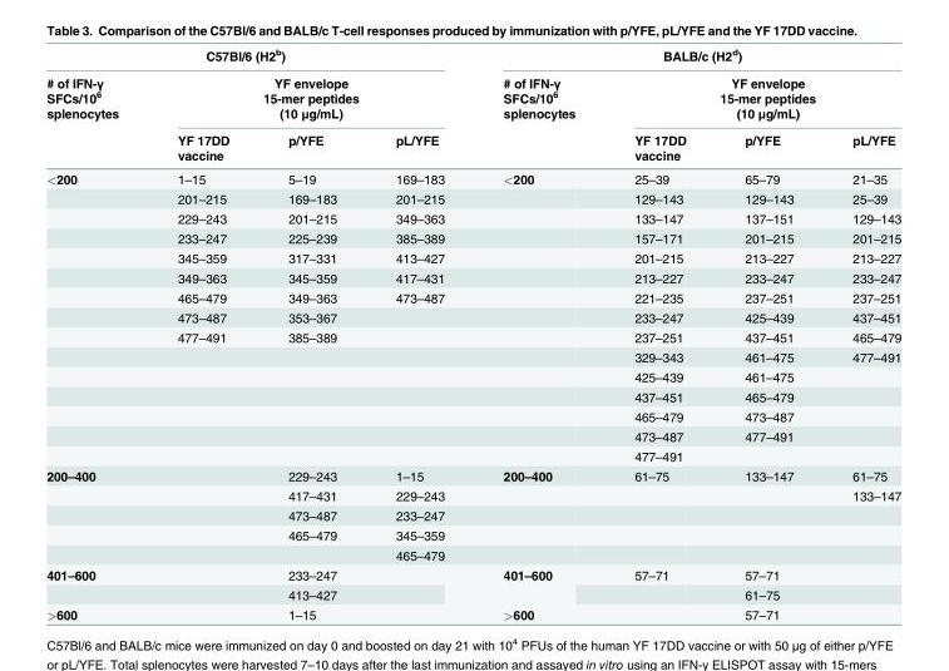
<table><thead><tr><td colspan="4">C57Bl/6 (H2<sup>b</sup>)</td><td colspan="4">BALB/c (H2<sup>d</sup>)</td></tr><tr><td rowspan="2"># of IFN-γ SFCs/10<sup>6</sup> splenocytes</td><td colspan="3">YF envelope 15-mer peptides (10 μg/mL)</td><td rowspan="2"># of IFN-γ SFCs/10<sup>6</sup> splenocytes</td><td colspan="3">YF envelope 15-mer peptides (10 μg/mL)</td></tr><tr><td>YF 17DD vaccine</td><td>p/YFE</td><td>pL/YFE</td><td>YF 17DD vaccine</td><td>p/YFE</td><td>pL/YFE</td></tr></thead><tbody><tr><td rowspan="15">&lt;200</td><td>1–15</td><td>5–19</td><td>169–183</td><td>&lt;200</td><td>25–39</td><td>65–79</td><td>21–35</td></tr><tr><td>201–215</td><td>169–183</td><td>201–215</td><td></td><td>129–143</td><td>129–143</td><td>25–39</td></tr><tr><td>229–243</td><td>201–215</td><td>349–363</td><td></td><td>133–147</td><td>137–151</td><td>129–143</td></tr><tr><td>233–247</td><td>225–239</td><td>385–389</td><td></td><td>157–171</td><td>201–215</td><td>201–215</td></tr><tr><td>345–359</td><td>317–331</td><td>413–427</td><td></td><td>201–215</td><td>213–227</td><td>213–227</td></tr><tr><td>349–363</td><td>345–359</td><td>417–431</td><td></td><td>213–227</td><td>233–247</td><td>233–247</td></tr><tr><td>465–479</td><td>349–363</td><td>473–487</td><td></td><td>221–235</td><td>237–251</td><td>237–251</td></tr><tr><td>473–487</td><td>353–367</td><td></td><td></td><td>233–247</td><td>425–439</td><td>437–451</td></tr><tr><td>477–491</td><td>385–389</td><td></td><td></td><td>237–251</td><td>437–451</td><td>465–479</td></tr><tr><td></td><td></td><td></td><td></td><td>329–343</td><td>461–475</td><td>477–491</td></tr><tr><td></td><td></td><td></td><td></td><td>425–439</td><td>461–475</td><td></td></tr><tr><td></td><td></td><td></td><td></td><td>437–451</td><td>465–479</td><td></td></tr><tr><td></td><td></td><td></td><td></td><td>465–479</td><td>473–487</td><td></td></tr><tr><td></td><td></td><td></td><td></td><td>473–487</td><td>477–491</td><td></td></tr><tr><td></td><td></td><td></td><td></td><td>477–491</td><td></td><td></td></tr><tr><td rowspan="5">200–400</td><td></td><td>229–243</td><td>1–15</td><td>200–400</td><td>61–75</td><td>133–147</td><td>61–75</td></tr><tr><td></td><td>417–431</td><td>229–243</td><td></td><td></td><td></td><td>133–147</td></tr><tr><td></td><td>473–487</td><td>233–247</td><td></td><td></td><td></td><td></td></tr><tr><td></td><td>465–479</td><td>345–359</td><td></td><td></td><td></td><td></td></tr><tr><td></td><td></td><td>465–479</td><td></td><td></td><td></td><td></td></tr><tr><td rowspan="2">401–600</td><td></td><td>233–247</td><td></td><td rowspan="2">401–600</td><td>57–71</td><td>57–71</td><td></td></tr><tr><td></td><td>413–427</td><td></td><td></td><td>61–75</td><td></td></tr><tr><td>&gt;600</td><td></td><td>1–15</td><td></td><td>&gt;600</td><td></td><td>57–71</td><td></td></tr></tbody></table>